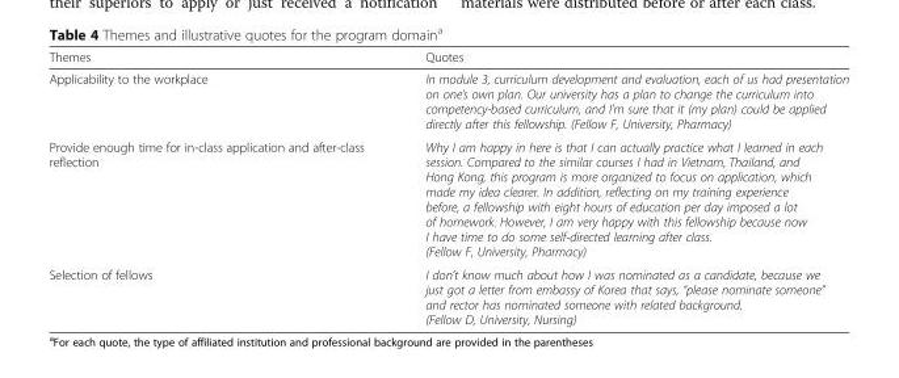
<table><thead><tr><td>Themes</td><td>Quotes</td></tr></thead><tbody><tr><td>Applicability to the workplace</td><td>In module 3, curriculum development and evaluation, each of us had presentation on one’s own plan. Our university has a plan to change the curriculum into competency-based curriculum, and I’m sure that it (my plan) could be applied directly after this fellowship. (Fellow F, University, Pharmacy)</td></tr><tr><td>Provide enough time for in-class application and after-class reflection</td><td>Why I am happy in here is that I can actually practice what I learned in each session. Compared to the similar courses I had in Vietnam, Thailand, and Hong Kong, this program is more organized to focus on application, which made my idea clearer. In addition, reflecting on my training experience before, a fellowship with eight hours of education per day imposed a lot of homework. However, I am very happy with this fellowship because now I have time to do some self-directed learning after class. (Fellow F, University, Pharmacy)</td></tr><tr><td>Selection of fellows</td><td>I don’t know much about how I was nominated as a candidate, because we just got a letter from embassy of Korea that says, “please nominate someone” and rector has nominated someone with related background. (Fellow D, University, Nursing)</td></tr></tbody></table>